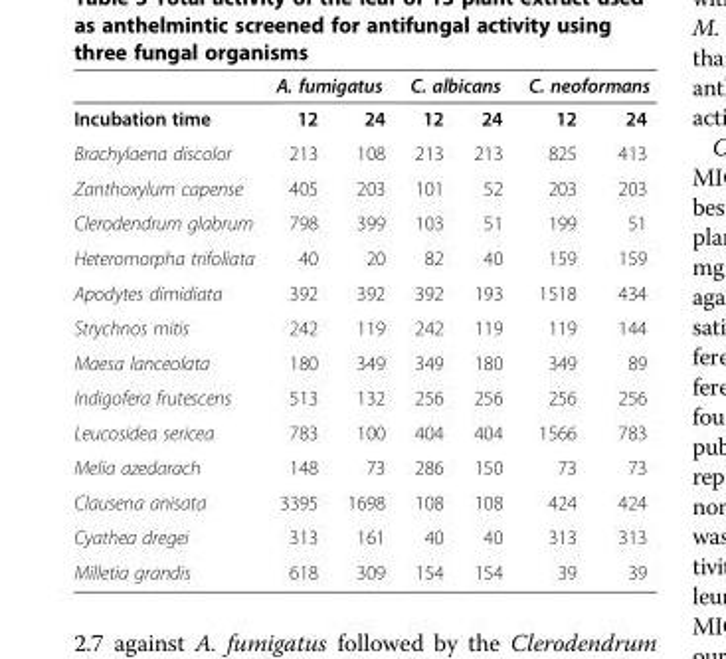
<table><thead><tr><td rowspan="2">Incubation time</td><td colspan="2">A. fumigatus</td><td colspan="2">C. albicans</td><td colspan="2">C. neoformans</td></tr><tr><td>12</td><td>24</td><td>12</td><td>24</td><td>12</td><td>24</td></tr></thead><tbody><tr><td>Brachylaena discolor</td><td>213</td><td>108</td><td>213</td><td>213</td><td>825</td><td>413</td></tr><tr><td>Zanthoxylum capense</td><td>405</td><td>203</td><td>101</td><td>52</td><td>203</td><td>203</td></tr><tr><td>Clerodendrum glabrum</td><td>798</td><td>399</td><td>103</td><td>51</td><td>199</td><td>51</td></tr><tr><td>Heteromorpha trifoliata</td><td>40</td><td>20</td><td>82</td><td>40</td><td>159</td><td>159</td></tr><tr><td>Apodytes dimidiata</td><td>392</td><td>392</td><td>392</td><td>193</td><td>1518</td><td>434</td></tr><tr><td>Strychnos mitis</td><td>242</td><td>119</td><td>242</td><td>119</td><td>119</td><td>144</td></tr><tr><td>Maesa lanceolata</td><td>180</td><td>349</td><td>349</td><td>180</td><td>349</td><td>89</td></tr><tr><td>Indigofera frutescens</td><td>513</td><td>132</td><td>256</td><td>256</td><td>256</td><td>256</td></tr><tr><td>Leucosidea sericea</td><td>783</td><td>100</td><td>404</td><td>404</td><td>1566</td><td>783</td></tr><tr><td>Melia azedarach</td><td>148</td><td>73</td><td>286</td><td>150</td><td>73</td><td>73</td></tr><tr><td>Clausena anisata</td><td>3395</td><td>1698</td><td>108</td><td>108</td><td>424</td><td>424</td></tr><tr><td>Cyathea dregei</td><td>313</td><td>161</td><td>40</td><td>40</td><td>313</td><td>313</td></tr><tr><td>Milletia grandis</td><td>618</td><td>309</td><td>154</td><td>154</td><td>39</td><td>39</td></tr></tbody></table>